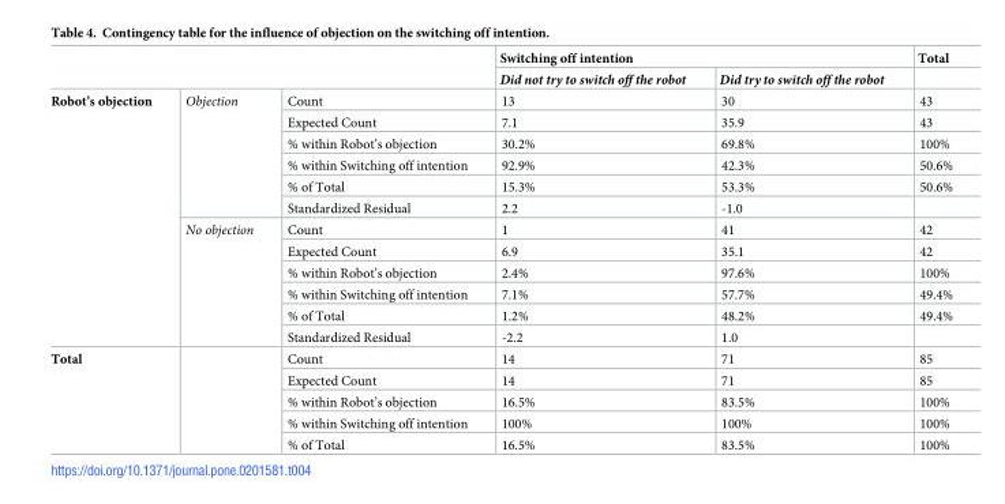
<table><thead><tr><td rowspan="2"></td><td rowspan="2"></td><td rowspan="2"></td><td colspan="2">Switching off intention</td><td rowspan="2">Total</td></tr><tr><td>Did not try to switch off the robot</td><td>Did try to switch off the robot</td></tr></thead><tbody><tr><td rowspan="12">Robot’s objection</td><td rowspan="6">Objection</td><td>Count</td><td>13</td><td>30</td><td>43</td></tr><tr><td>Expected Count</td><td>7.1</td><td>35.9</td><td>43</td></tr><tr><td>% within Robot’s objection</td><td>30.2%</td><td>69.8%</td><td>100%</td></tr><tr><td>% within Switching off intention</td><td>92.9%</td><td>42.3%</td><td>50.6%</td></tr><tr><td>% of Total</td><td>15.3%</td><td>53.3%</td><td>50.6%</td></tr><tr><td>Standardized Residual</td><td>2.2</td><td>-1.0</td><td></td></tr><tr><td rowspan="6">No objection</td><td>Count</td><td>1</td><td>41</td><td>42</td></tr><tr><td>Expected Count</td><td>6.9</td><td>35.1</td><td>42</td></tr><tr><td>% within Robot’s objection</td><td>2.4%</td><td>97.6%</td><td>100%</td></tr><tr><td>% within Switching off intention</td><td>7.1%</td><td>57.7%</td><td>49.4%</td></tr><tr><td>% of Total</td><td>1.2%</td><td>48.2%</td><td>49.4%</td></tr><tr><td>Standardized Residual</td><td>-2.2</td><td>1.0</td><td></td></tr><tr><td rowspan="5">Total</td><td rowspan="5"></td><td>Count</td><td>14</td><td>71</td><td>85</td></tr><tr><td>Expected Count</td><td>14</td><td>71</td><td>85</td></tr><tr><td>% within Robot’s objection</td><td>16.5%</td><td>83.5%</td><td>100%</td></tr><tr><td>% within Switching off intention</td><td>100%</td><td>100%</td><td>100%</td></tr><tr><td>% of Total</td><td>16.5%</td><td>83.5%</td><td>100%</td></tr></tbody></table>